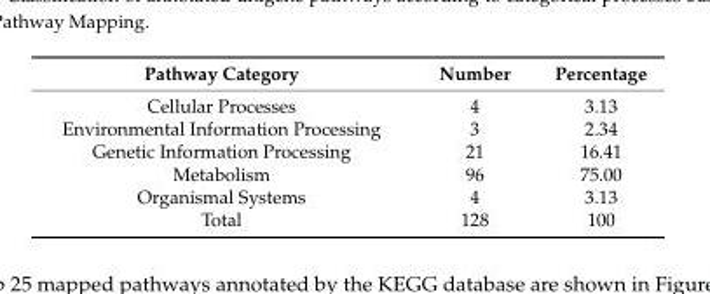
<table><thead><tr><td>Pathway Category</td><td>Number</td><td>Percentage</td></tr></thead><tbody><tr><td>Cellular Processes</td><td>4</td><td>3.13</td></tr><tr><td>Environmental Information Processing</td><td>3</td><td>2.34</td></tr><tr><td>Genetic Information Processing</td><td>21</td><td>16.41</td></tr><tr><td>Metabolism</td><td>96</td><td>75.00</td></tr><tr><td>Organismal Systems</td><td>4</td><td>3.13</td></tr><tr><td>Total</td><td>128</td><td>100</td></tr></tbody></table>